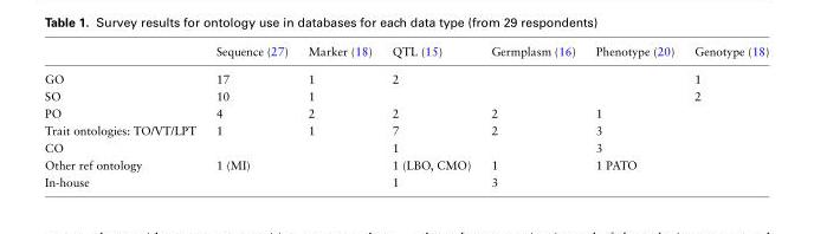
<table><thead><tr><td></td><td>Sequence (27)</td><td>Marker (18)</td><td>QTL (15)</td><td>Germplasm (16)</td><td>Phenotype (20)</td><td>Genotype (18)</td></tr></thead><tbody><tr><td>GO</td><td>17</td><td>1</td><td>2</td><td></td><td></td><td>1</td></tr><tr><td>SO</td><td>10</td><td>1</td><td></td><td></td><td></td><td>2</td></tr><tr><td>PO</td><td>4</td><td>2</td><td>2</td><td>2</td><td>1</td><td></td></tr><tr><td>Trait ontologies: TO/VT/LPT</td><td>1</td><td>1</td><td>7</td><td>2</td><td>3</td><td></td></tr><tr><td>CO</td><td></td><td></td><td>1</td><td></td><td>3</td><td></td></tr><tr><td>Other ref ontology</td><td>1 (MI)</td><td></td><td>1 (LBO, CMO)</td><td>1</td><td>1 PATO</td><td></td></tr><tr><td>In-house</td><td></td><td></td><td>1</td><td>3</td><td></td><td></td></tr></tbody></table>